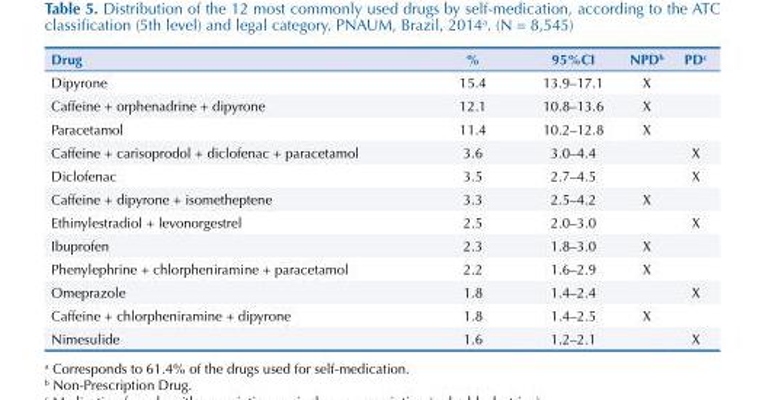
<table><thead><tr><td>Drug</td><td>%</td><td>95%CI</td><td>NPD<sup>b</sup></td><td>PD<sup>c</sup></td></tr></thead><tbody><tr><td>Dipyrone</td><td>15.4</td><td>13.9–17.1</td><td>X</td><td></td></tr><tr><td>Caffeine + orphenadrine + dipyrone</td><td>12.1</td><td>10.8–13.6</td><td>X</td><td></td></tr><tr><td>Paracetamol</td><td>11.4</td><td>10.2–12.8</td><td>X</td><td></td></tr><tr><td>Caffeine + carisoprodol + diclofenac + paracetamol</td><td>3.6</td><td>3.0–4.4</td><td></td><td>X</td></tr><tr><td>Diclofenac</td><td>3.5</td><td>2.7–4.5</td><td></td><td>X</td></tr><tr><td>Caffeine + dipyrone + isometheptene</td><td>3.3</td><td>2.5–4.2</td><td>X</td><td></td></tr><tr><td>Ethinylestradiol + levonorgestrel</td><td>2.5</td><td>2.0–3.0</td><td></td><td>X</td></tr><tr><td>Ibuprofen</td><td>2.3</td><td>1.8–3.0</td><td>X</td><td></td></tr><tr><td>Phenylephrine + chlorpheniramine + paracetamol</td><td>2.2</td><td>1.6–2.9</td><td>X</td><td></td></tr><tr><td>Omeprazole</td><td>1.8</td><td>1.4–2.4</td><td></td><td>X</td></tr><tr><td>Caffeine + chlorpheniramine + dipyrone</td><td>1.8</td><td>1.4–2.5</td><td>X</td><td></td></tr><tr><td>Nimesulide</td><td>1.6</td><td>1.2–2.1</td><td></td><td>X</td></tr></tbody></table>